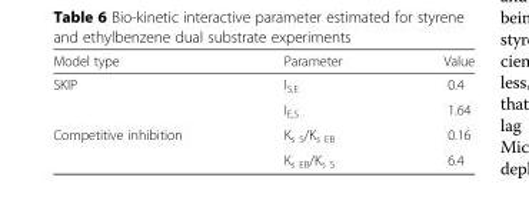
<table><thead><tr><td>Model type</td><td>Parameter</td><td>Value</td></tr></thead><tbody><tr><td rowspan="2">SKIP</td><td>I<sub>S,E</sub></td><td>0.4</td></tr><tr><td>I<sub>E,S</sub></td><td>1.64</td></tr><tr><td rowspan="2">Competitive inhibition</td><td>K<sub>s S</sub>/K<sub>s EB</sub></td><td>0.16</td></tr><tr><td>K<sub>s EB</sub>/K<sub>s S</sub></td><td>6.4</td></tr></tbody></table>